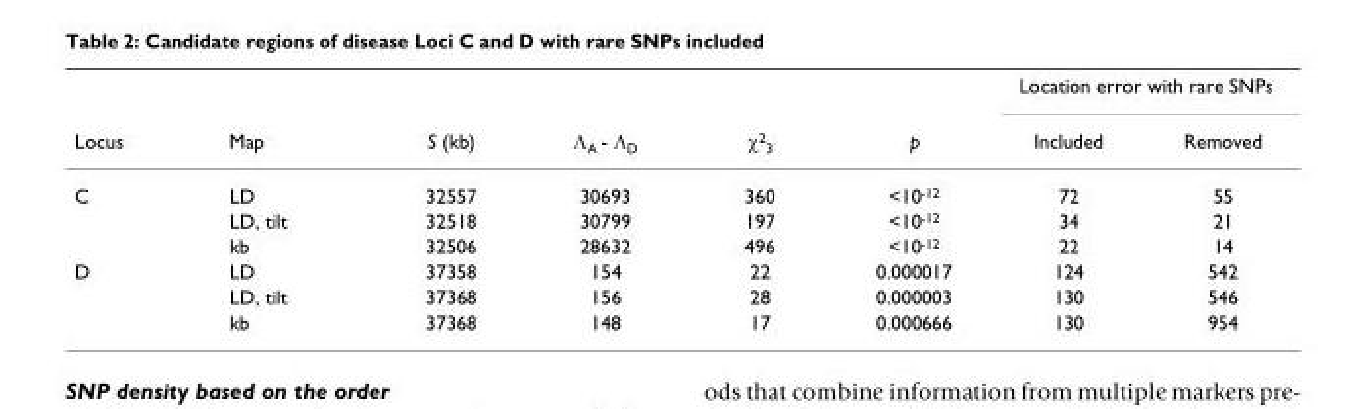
<table><thead><tr><td rowspan="2">Locus</td><td rowspan="2">Map</td><td rowspan="2">S (kb)</td><td rowspan="2">Λ<sub>A</sub> - Λ<sub>D</sub></td><td rowspan="2">χ<sup>2</sup><sub>3</sub></td><td rowspan="2">p</td><td colspan="2">Location error with rare SNPs</td></tr><tr><td>Included</td><td>Removed</td></tr></thead><tbody><tr><td rowspan="3">C</td><td>LD</td><td>32557</td><td>30693</td><td>360</td><td>&lt;10<sup>-12</sup></td><td>72</td><td>55</td></tr><tr><td>LD, tilt</td><td>32518</td><td>30799</td><td>197</td><td>&lt;10<sup>-12</sup></td><td>34</td><td>21</td></tr><tr><td>kb</td><td>32506</td><td>28632</td><td>496</td><td>&lt;10<sup>-12</sup></td><td>22</td><td>14</td></tr><tr><td rowspan="3">D</td><td>LD</td><td>37358</td><td>154</td><td>22</td><td>0.000017</td><td>124</td><td>542</td></tr><tr><td>LD, tilt</td><td>37368</td><td>156</td><td>28</td><td>0.000003</td><td>130</td><td>546</td></tr><tr><td>kb</td><td>37368</td><td>148</td><td>17</td><td>0.000666</td><td>130</td><td>954</td></tr></tbody></table>